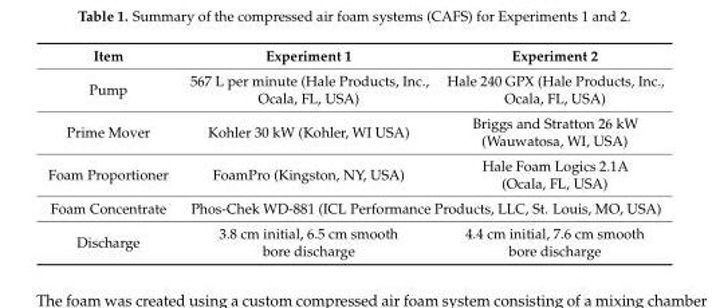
<table><thead><tr><td>Item</td><td>Experiment 1</td><td>Experiment 2</td></tr></thead><tbody><tr><td>Pump</td><td>567 L per minute (Hale Products, Inc., Ocala, FL, USA)</td><td>Hale 240 GPX (Hale Products, Inc., Ocala, FL, USA)</td></tr><tr><td>Prime Mover</td><td>Kohler 30 kW (Kohler, WI USA)</td><td>Briggs and Stratton 26 kW (Wauwatosa, WI, USA)</td></tr><tr><td>Foam Proportioner</td><td>FoamPro (Kingston, NY, USA)</td><td>Hale Foam Logics 2.1A (Ocala, FL, USA)</td></tr><tr><td>Foam Concentrate</td><td colspan="2">Phos-Chek WD-881 (ICL Performance Products, LLC, St. Louis, MO, USA)</td></tr><tr><td>Discharge</td><td>3.8 cm initial, 6.5 cm smooth bore discharge</td><td>4.4 cm initial, 7.6 cm smooth bore discharge</td></tr></tbody></table>